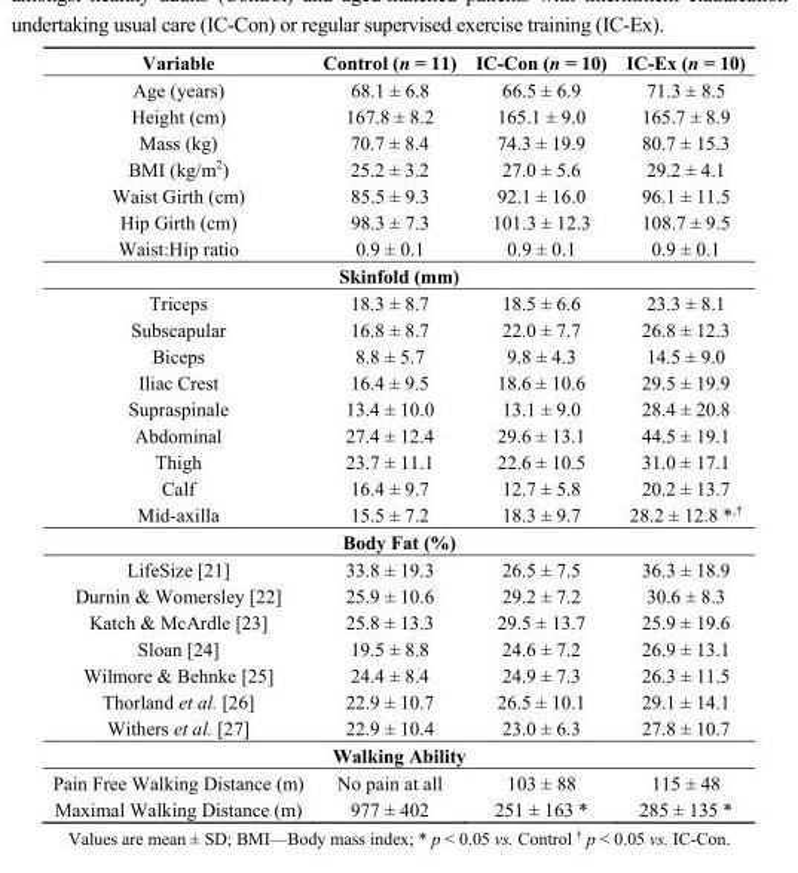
<table><thead><tr><td>Variable</td><td>Control (n = 11)</td><td>IC-Con (n = 10)</td><td>IC-Ex (n = 10)</td></tr></thead><tbody><tr><td>Age (years)</td><td>68.1 ± 6.8</td><td>66.5 ± 6.9</td><td>71.3 ± 8.5</td></tr><tr><td>Height (cm)</td><td>167.8 ± 8.2</td><td>165.1 ± 9.0</td><td>165.7 ± 8.9</td></tr><tr><td>Mass (kg)</td><td>70.7 ± 8.4</td><td>74.3 ± 19.9</td><td>80.7 ± 15.3</td></tr><tr><td>BMI (kg/m<sup>2</sup>)</td><td>25.2 ± 3.2</td><td>27.0 ± 5.6</td><td>29.2 ± 4.1</td></tr><tr><td>Waist Girth (cm)</td><td>85.5 ± 9.3</td><td>92.1 ± 16.0</td><td>96.1 ± 11.5</td></tr><tr><td>Hip Girth (cm)</td><td>98.3 ± 7.3</td><td>101.3 ± 12.3</td><td>108.7 ± 9.5</td></tr><tr><td>Waist:Hip ratio</td><td>0.9 ± 0.1</td><td>0.9 ± 0.1</td><td>0.9 ± 0.1</td></tr><tr><td colspan="4">Skinfold (mm)</td></tr><tr><td>Triceps</td><td>18.3 ± 8.7</td><td>18.5 ± 6.6</td><td>23.3 ± 8.1</td></tr><tr><td>Subscapular</td><td>16.8 ± 8.7</td><td>22.0 ± 7.7</td><td>26.8 ± 12.3</td></tr><tr><td>Biceps</td><td>8.8 ± 5.7</td><td>9.8 ± 4.3</td><td>14.5 ± 9.0</td></tr><tr><td>Iliac Crest</td><td>16.4 ± 9.5</td><td>18.6 ± 10.6</td><td>29.5 ± 19.9</td></tr><tr><td>Supraspinale</td><td>13.4 ± 10.0</td><td>13.1 ± 9.0</td><td>28.4 ± 20.8</td></tr><tr><td>Abdominal</td><td>27.4 ± 12.4</td><td>29.6 ± 13.1</td><td>44.5 ± 19.1</td></tr><tr><td>Thigh</td><td>23.7 ± 11.1</td><td>22.6 ± 10.5</td><td>31.0 ± 17.1</td></tr><tr><td>Calf</td><td>16.4 ± 9.7</td><td>12.7 ± 5.8</td><td>20.2 ± 13.7</td></tr><tr><td>Mid-axilla</td><td>15.5 ± 7.2</td><td>18.3 ± 9.7</td><td>28.2 ± 12.8 *<sup>,†</sup></td></tr><tr><td colspan="4">Body Fat (%)</td></tr><tr><td>LifeSize [21]</td><td>33.8 ± 19.3</td><td>26.5 ± 7.5</td><td>36.3 ± 18.9</td></tr><tr><td>Durnin &amp; Womersley [22]</td><td>25.9 ± 10.6</td><td>29.2 ± 7.2</td><td>30.6 ± 8.3</td></tr><tr><td>Katch &amp; McArdle [23]</td><td>25.8 ± 13.3</td><td>29.5 ± 13.7</td><td>25.9 ± 19.6</td></tr><tr><td>Sloan [24]</td><td>19.5 ± 8.8</td><td>24.6 ± 7.2</td><td>26.9 ± 13.1</td></tr><tr><td>Wilmore &amp; Behnke [25]</td><td>24.4 ± 8.4</td><td>24.9 ± 7.3</td><td>26.3 ± 11.5</td></tr><tr><td>Thorland et al. [26]</td><td>22.9 ± 10.7</td><td>26.5 ± 10.1</td><td>29.1 ± 14.1</td></tr><tr><td>Withers et al. [27]</td><td>22.9 ± 10.4</td><td>23.0 ± 6.3</td><td>27.8 ± 10.7</td></tr><tr><td colspan="4">Walking Ability</td></tr><tr><td>Pain Free Walking Distance (m)</td><td>No pain at all</td><td>103 ± 88</td><td>115 ± 48</td></tr><tr><td>Maximal Walking Distance (m)</td><td>977 ± 402</td><td>251 ± 163 *</td><td>285 ± 135 *</td></tr></tbody></table>